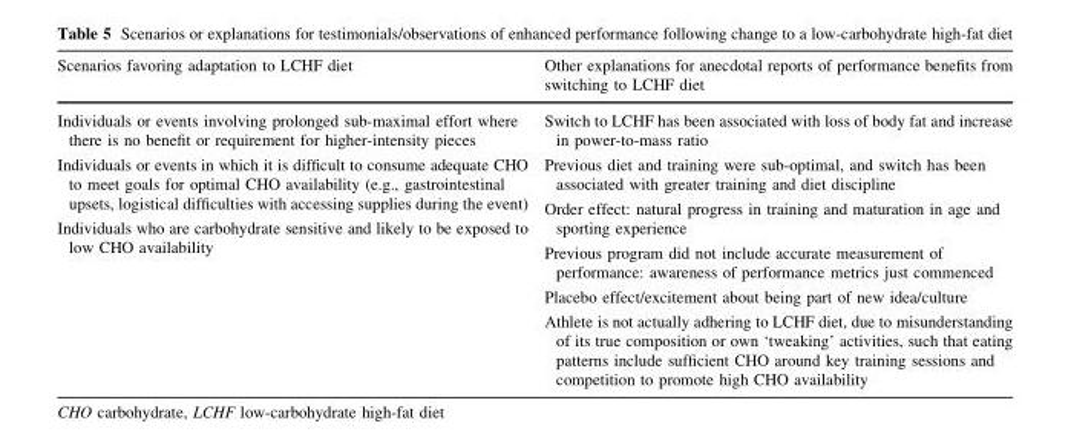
<table><thead><tr><td>Scenarios favoring adaptation to LCHF diet</td><td>Other explanations for anecdotal reports of performance benefits from switching to LCHF diet</td></tr></thead><tbody><tr><td>Individuals or events involving prolonged sub-maximal effort where there is no benefit or requirement for higher-intensity pieces Individuals or events in which it is difficult to consume adequate CHO to meet goals for optimal CHO availability (e.g., gastrointestinal upsets, logistical difficulties with accessing supplies during the event) Individuals who are carbohydrate sensitive and likely to be exposed to low CHO availability</td><td>Switch to LCHF has been associated with loss of body fat and increase in power-to-mass ratio Previous diet and training were sub-optimal, and switch has been associated with greater training and diet discipline Order effect: natural progress in training and maturation in age and sporting experience Previous program did not include accurate measurement of performance: awareness of performance metrics just commenced Placebo effect/excitement about being part of new idea/culture Athlete is not actually adhering to LCHF diet, due to misunderstanding of its true composition or own ‘tweaking’ activities, such that eating patterns include sufficient CHO around key training sessions and competition to promote high CHO availability</td></tr></tbody></table>